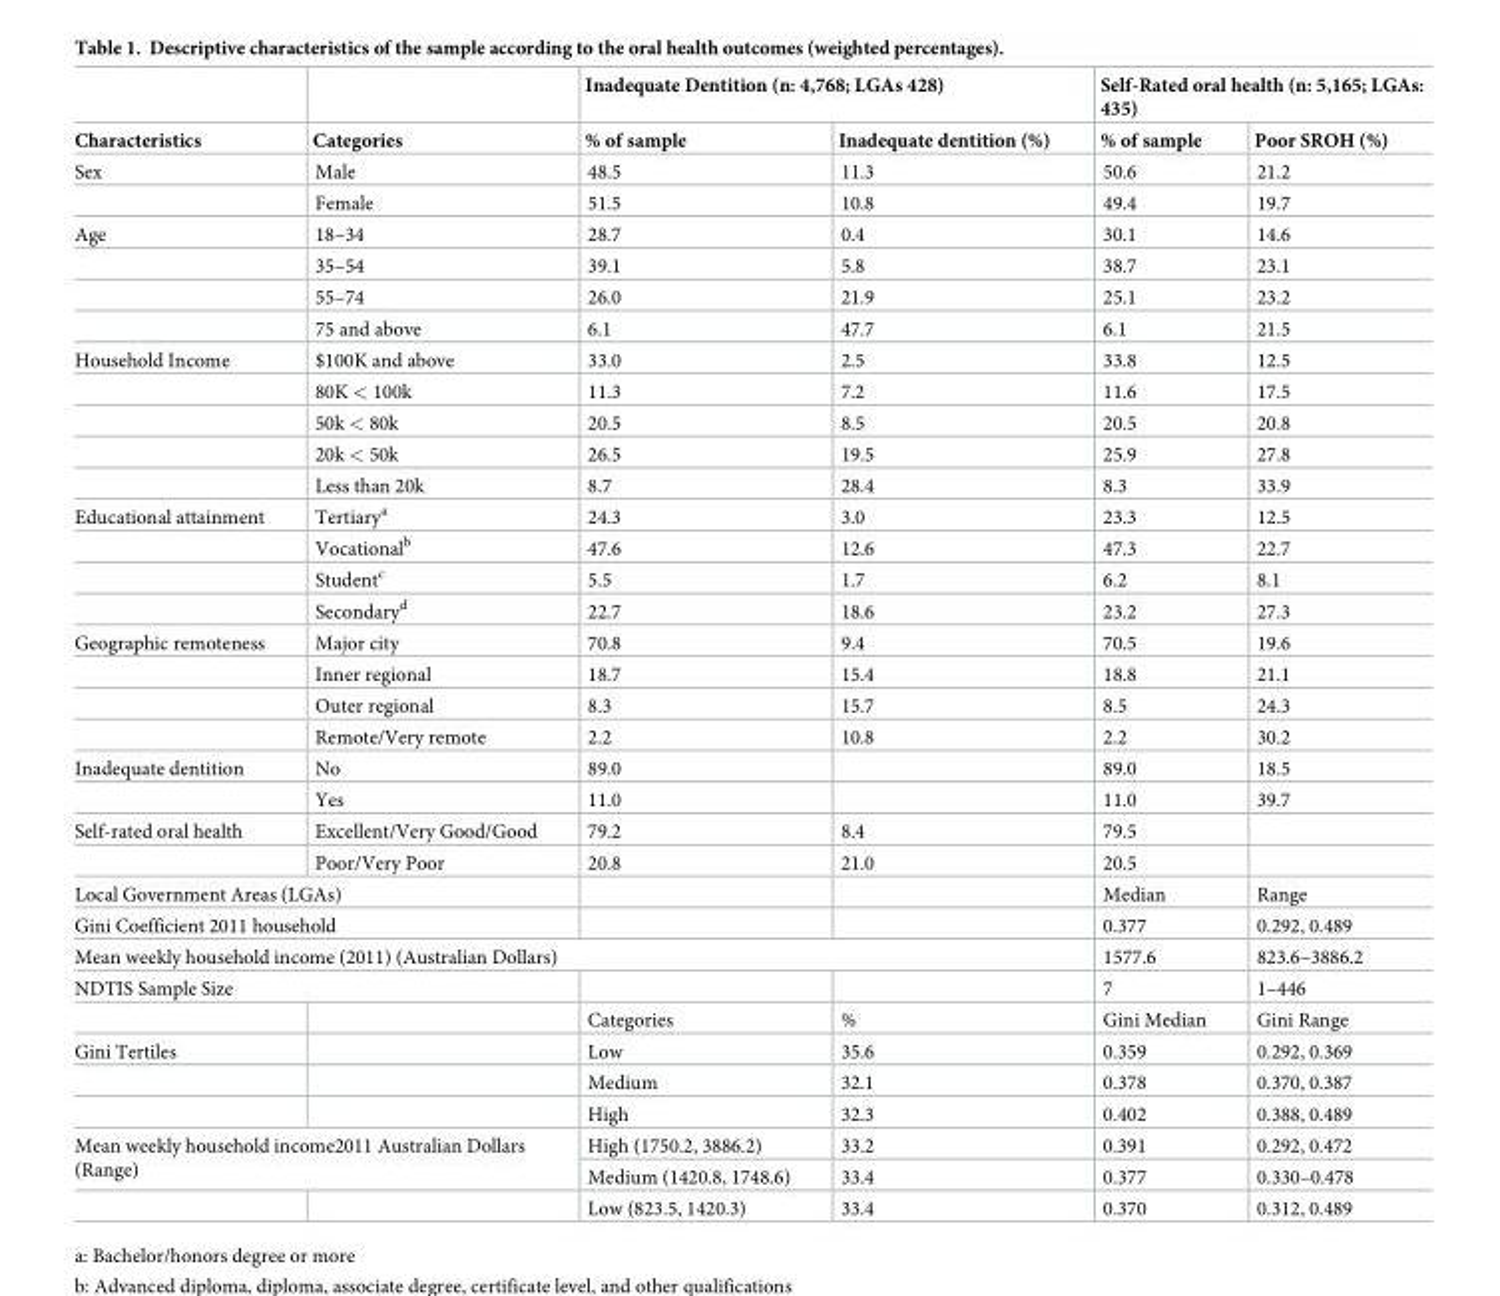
<table><thead><tr><td rowspan="2">Characteristics</td><td rowspan="2">Categories</td><td colspan="2">Inadequate Dentition (n: 4,768; LGAs 428)</td><td colspan="2">Self-Rated oral health (n: 5,165; LGAs: 435)</td></tr><tr><td>% of sample</td><td>Inadequate dentition (%)</td><td>% of sample</td><td>Poor SROH (%)</td></tr></thead><tbody><tr><td rowspan="2">Sex</td><td>Male</td><td>48.5</td><td>11.3</td><td>50.6</td><td>21.2</td></tr><tr><td>Female</td><td>51.5</td><td>10.8</td><td>49.4</td><td>19.7</td></tr><tr><td rowspan="4">Age</td><td>18–34</td><td>28.7</td><td>0.4</td><td>30.1</td><td>14.6</td></tr><tr><td>35–54</td><td>39.1</td><td>5.8</td><td>38.7</td><td>23.1</td></tr><tr><td>55–74</td><td>26.0</td><td>21.9</td><td>25.1</td><td>23.2</td></tr><tr><td>75 and above</td><td>6.1</td><td>47.7</td><td>6.1</td><td>21.5</td></tr><tr><td rowspan="5">Household Income</td><td>$100K and above</td><td>33.0</td><td>2.5</td><td>33.8</td><td>12.5</td></tr><tr><td>80K &lt; 100k</td><td>11.3</td><td>7.2</td><td>11.6</td><td>17.5</td></tr><tr><td>50k &lt; 80k</td><td>20.5</td><td>8.5</td><td>20.5</td><td>20.8</td></tr><tr><td>20k &lt; 50k</td><td>26.5</td><td>19.5</td><td>25.9</td><td>27.8</td></tr><tr><td>Less than 20k</td><td>8.7</td><td>28.4</td><td>8.3</td><td>33.9</td></tr><tr><td rowspan="4">Educational attainment</td><td>Tertiary<sup>a</sup></td><td>24.3</td><td>3.0</td><td>23.3</td><td>12.5</td></tr><tr><td>Vocational<sup>b</sup></td><td>47.6</td><td>12.6</td><td>47.3</td><td>22.7</td></tr><tr><td>Student<sup>c</sup></td><td>5.5</td><td>1.7</td><td>6.2</td><td>8.1</td></tr><tr><td>Secondary<sup>d</sup></td><td>22.7</td><td>18.6</td><td>23.2</td><td>27.3</td></tr><tr><td rowspan="4">Geographic remoteness</td><td>Major city</td><td>70.8</td><td>9.4</td><td>70.5</td><td>19.6</td></tr><tr><td>Inner regional</td><td>18.7</td><td>15.4</td><td>18.8</td><td>21.1</td></tr><tr><td>Outer regional</td><td>8.3</td><td>15.7</td><td>8.5</td><td>24.3</td></tr><tr><td>Remote/Very remote</td><td>2.2</td><td>10.8</td><td>2.2</td><td>30.2</td></tr><tr><td rowspan="2">Inadequate dentition</td><td>No</td><td>89.0</td><td></td><td>89.0</td><td>18.5</td></tr><tr><td>Yes</td><td>11.0</td><td></td><td>11.0</td><td>39.7</td></tr><tr><td rowspan="2">Self-rated oral health</td><td>Excellent/Very Good/Good</td><td>79.2</td><td>8.4</td><td>79.5</td><td></td></tr><tr><td>Poor/Very Poor</td><td>20.8</td><td>21.0</td><td>20.5</td><td></td></tr><tr><td colspan="2">Local Government Areas (LGAs)</td><td></td><td></td><td>Median</td><td>Range</td></tr><tr><td colspan="2">Gini Coefficient 2011 household</td><td></td><td></td><td>0.377</td><td>0.292, 0.489</td></tr><tr><td colspan="4">Mean weekly household income (2011) (Australian Dollars)</td><td>1577.6</td><td>823.6–3886.2</td></tr><tr><td colspan="2">NDTIS Sample Size</td><td></td><td></td><td>7</td><td>1–446</td></tr><tr><td></td><td></td><td>Categories</td><td>%</td><td>Gini Median</td><td>Gini Range</td></tr><tr><td rowspan="3">Gini Tertiles</td><td></td><td>Low</td><td>35.6</td><td>0.359</td><td>0.292, 0.369</td></tr><tr><td></td><td>Medium</td><td>32.1</td><td>0.378</td><td>0.370, 0.387</td></tr><tr><td></td><td>High</td><td>32.3</td><td>0.402</td><td>0.388, 0.489</td></tr><tr><td rowspan="2" colspan="2">Mean weekly household income2011 Australian Dollars (Range)</td><td>High (1750.2, 3886.2)</td><td>33.2</td><td>0.391</td><td>0.292, 0.472</td></tr><tr><td>Medium (1420.8, 1748.6)</td><td>33.4</td><td>0.377</td><td>0.330–0.478</td></tr><tr><td></td><td></td><td>Low (823.5, 1420.3)</td><td>33.4</td><td>0.370</td><td>0.312, 0.489</td></tr></tbody></table>